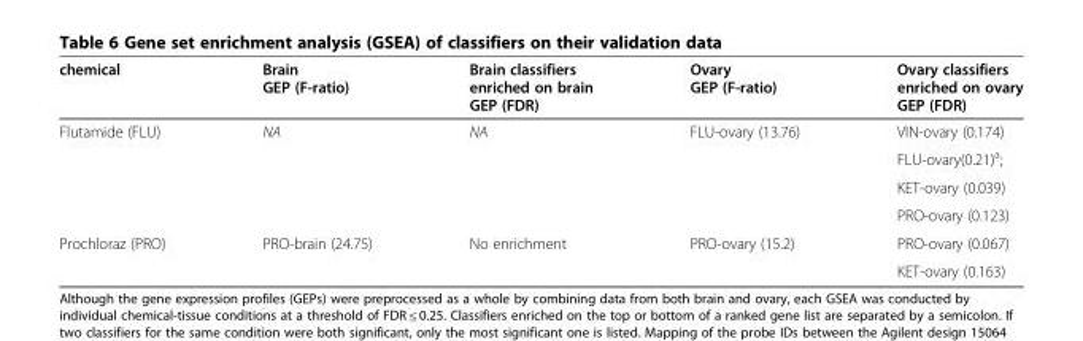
<table><thead><tr><td>chemical</td><td>Brain GEP (F-ratio)</td><td>Brain classifiers enriched on brain GEP (FDR)</td><td>Ovary GEP (F-ratio)</td><td>Ovary classifiers enriched on ovary GEP (FDR)</td></tr></thead><tbody><tr><td rowspan="4">Flutamide (FLU)</td><td>NA</td><td>NA</td><td>FLU-ovary (13.76)</td><td>VIN-ovary (0.174)</td></tr><tr><td></td><td></td><td></td><td>FLU-ovary(0.21)<sup>a</sup>;</td></tr><tr><td></td><td></td><td></td><td>KET-ovary (0.039)</td></tr><tr><td></td><td></td><td></td><td>PRO-ovary (0.123)</td></tr><tr><td rowspan="2">Prochloraz (PRO)</td><td>PRO-brain (24.75)</td><td>No enrichment</td><td>PRO-ovary (15.2)</td><td>PRO-ovary (0.067)</td></tr><tr><td></td><td></td><td></td><td>KET-ovary (0.163)</td></tr></tbody></table>